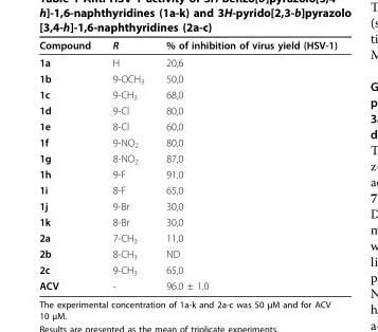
<table><thead><tr><td>Compound</td><td>R</td><td>% of inhibition of virus yield (HSV-1)</td></tr></thead><tbody><tr><td>1a</td><td>H</td><td>20,6</td></tr><tr><td>1b</td><td>9-OCH<sub>3</sub></td><td>50,0</td></tr><tr><td>1c</td><td>9-CH<sub>3</sub></td><td>68,0</td></tr><tr><td>1d</td><td>9-Cl</td><td>80,0</td></tr><tr><td>1e</td><td>8-Cl</td><td>60,0</td></tr><tr><td>1f</td><td>9-NO<sub>2</sub></td><td>80,0</td></tr><tr><td>1g</td><td>8-NO<sub>2</sub></td><td>87,0</td></tr><tr><td>1h</td><td>9-F</td><td>91,0</td></tr><tr><td>1i</td><td>8-F</td><td>65,0</td></tr><tr><td>1j</td><td>9-Br</td><td>30,0</td></tr><tr><td>1k</td><td>8-Br</td><td>30,0</td></tr><tr><td>2a</td><td>7-CH<sub>3</sub></td><td>11,0</td></tr><tr><td>2b</td><td>8-CH<sub>3</sub></td><td>ND</td></tr><tr><td>2c</td><td>9-CH<sub>3</sub></td><td>65,0</td></tr><tr><td>ACV</td><td>-</td><td>96.0 ± 1.0</td></tr></tbody></table>